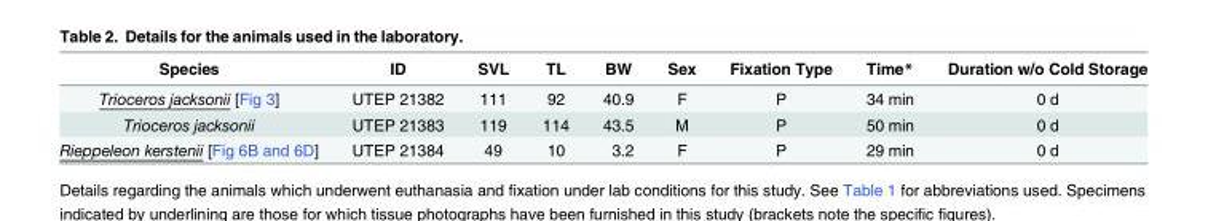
<table><thead><tr><td>Species</td><td>ID</td><td>SVL</td><td>TL</td><td>BW</td><td>Sex</td><td>Fixation Type</td><td>Time*</td><td>Duration w/o Cold Storage</td></tr></thead><tbody><tr><td>Trioceros jacksonii [Fig 3]</td><td>UTEP 21382</td><td>111</td><td>92</td><td>40.9</td><td>F</td><td>P</td><td>34 min</td><td>0 d</td></tr><tr><td>Trioceros jacksonii</td><td>UTEP 21383</td><td>119</td><td>114</td><td>43.5</td><td>M</td><td>P</td><td>50 min</td><td>0 d</td></tr><tr><td>Rieppeleon kerstenii [Fig 6B and 6D]</td><td>UTEP 21384</td><td>49</td><td>10</td><td>3.2</td><td>F</td><td>P</td><td>29 min</td><td>0 d</td></tr></tbody></table>